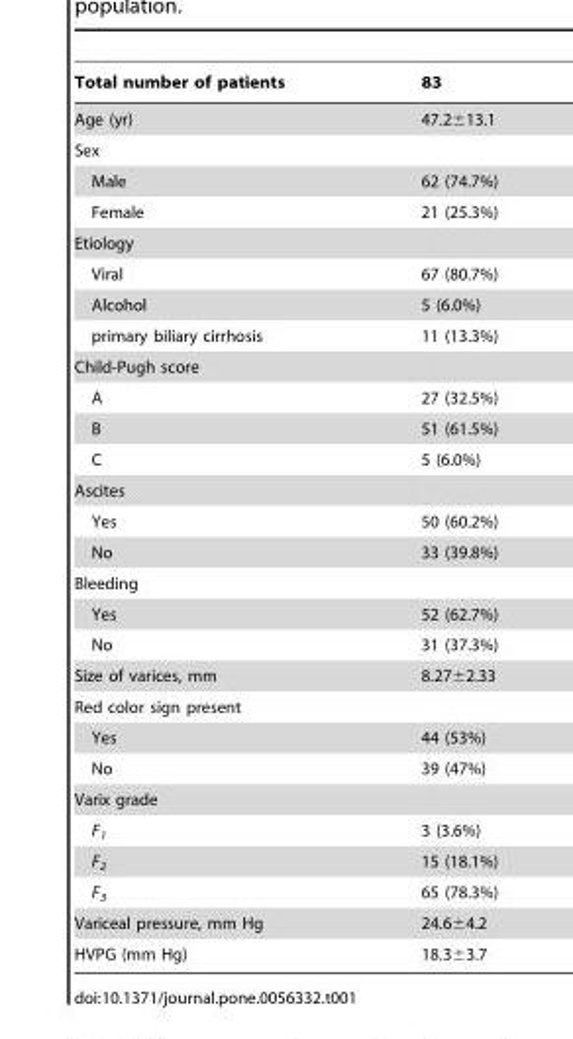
<table><thead><tr><td>Total number of patients</td><td>83</td></tr></thead><tbody><tr><td>Age (yr)</td><td>47.2±13.1</td></tr><tr><td colspan="2">Sex</td></tr><tr><td>Male</td><td>62 (74.7%)</td></tr><tr><td>Female</td><td>21 (25.3%)</td></tr><tr><td colspan="2">Etiology</td></tr><tr><td>Viral</td><td>67 (80.7%)</td></tr><tr><td>Alcohol</td><td>5 (6.0%)</td></tr><tr><td>primary biliary cirrhosis</td><td>11 (13.3%)</td></tr><tr><td colspan="2">Child-Pugh score</td></tr><tr><td>A</td><td>27 (32.5%)</td></tr><tr><td>B</td><td>51 (61.5%)</td></tr><tr><td>C</td><td>5 (6.0%)</td></tr><tr><td colspan="2">Ascites</td></tr><tr><td>Yes</td><td>50 (60.2%)</td></tr><tr><td>No</td><td>33 (39.8%)</td></tr><tr><td colspan="2">Bleeding</td></tr><tr><td>Yes</td><td>52 (62.7%)</td></tr><tr><td>No</td><td>31 (37.3%)</td></tr><tr><td>Size of varices, mm</td><td>8.27±2.33</td></tr><tr><td colspan="2">Red color sign present</td></tr><tr><td>Yes</td><td>44 (53%)</td></tr><tr><td>No</td><td>39 (47%)</td></tr><tr><td colspan="2">Varix grade</td></tr><tr><td>F<sub>1</sub></td><td>3 (3.6%)</td></tr><tr><td>F<sub>2</sub></td><td>15 (18.1%)</td></tr><tr><td>F<sub>3</sub></td><td>65 (78.3%)</td></tr><tr><td>Variceal pressure, mm Hg</td><td>24.6±4.2</td></tr><tr><td>HVPG (mm Hg)</td><td>18.3±3.7</td></tr></tbody></table>